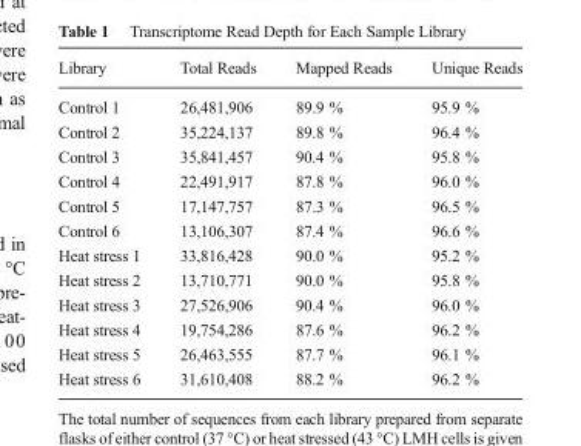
<table><thead><tr><td>Library</td><td>Total Reads</td><td>Mapped Reads</td><td>Unique Reads</td></tr></thead><tbody><tr><td>Control 1</td><td>26,481,906</td><td>89.9 %</td><td>95.9 %</td></tr><tr><td>Control 2</td><td>35,224,137</td><td>89.8 %</td><td>96.4 %</td></tr><tr><td>Control 3</td><td>35,841,457</td><td>90.4 %</td><td>95.8 %</td></tr><tr><td>Control 4</td><td>22,491,917</td><td>87.8 %</td><td>96.0 %</td></tr><tr><td>Control 5</td><td>17,147,757</td><td>87.3 %</td><td>96.5 %</td></tr><tr><td>Control 6</td><td>13,106,307</td><td>87.4 %</td><td>96.6 %</td></tr><tr><td>Heat stress 1</td><td>33,816,428</td><td>90.0 %</td><td>95.2 %</td></tr><tr><td>Heat stress 2</td><td>13,710,771</td><td>90.0 %</td><td>95.8 %</td></tr><tr><td>Heat stress 3</td><td>27,526,906</td><td>90.4 %</td><td>96.0 %</td></tr><tr><td>Heat stress 4</td><td>19,754,286</td><td>87.6 %</td><td>96.2 %</td></tr><tr><td>Heat stress 5</td><td>26,463,555</td><td>87.7 %</td><td>96.1 %</td></tr><tr><td>Heat stress 6</td><td>31,610,408</td><td>88.2 %</td><td>96.2 %</td></tr></tbody></table>